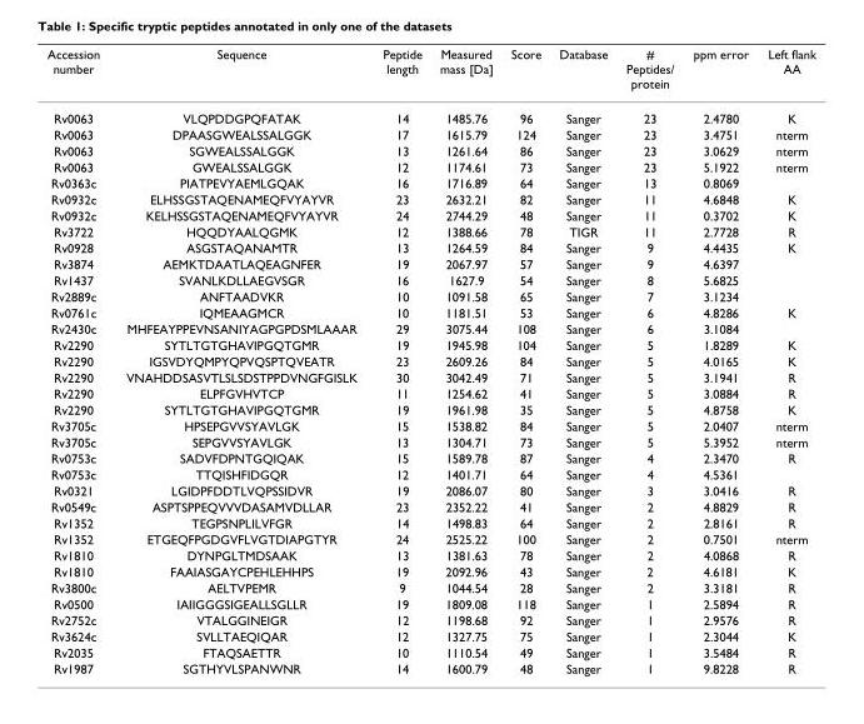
<table><thead><tr><td>Accession number</td><td>Sequence</td><td>Peptide length</td><td>Measured mass [Da]</td><td>Score</td><td>Database</td><td># Peptides/ protein</td><td>ppm error</td><td>Left flank AA</td></tr></thead><tbody><tr><td>Rv0063</td><td>VLQPDDGPQFATAK</td><td>14</td><td>1485.76</td><td>96</td><td>Sanger</td><td>23</td><td>2.4780</td><td>K</td></tr><tr><td>Rv0063</td><td>DPAASGWEALSSALGGK</td><td>17</td><td>1615.79</td><td>124</td><td>Sanger</td><td>23</td><td>3.4751</td><td>nterm</td></tr><tr><td>Rv0063</td><td>SGWEALSSALGGK</td><td>13</td><td>1261.64</td><td>86</td><td>Sanger</td><td>23</td><td>3.0629</td><td>nterm</td></tr><tr><td>Rv0063</td><td>GWEALSSALGGK</td><td>12</td><td>1174.61</td><td>73</td><td>Sanger</td><td>23</td><td>5.1922</td><td>nterm</td></tr><tr><td>Rv0363c</td><td>PIATPEVYAEMLGQAK</td><td>16</td><td>1716.89</td><td>64</td><td>Sanger</td><td>13</td><td>0.8069</td><td></td></tr><tr><td>Rv0932c</td><td>ELHSSGSTAQENAMEQFVYAYVR</td><td>23</td><td>2632.21</td><td>82</td><td>Sanger</td><td>11</td><td>4.6848</td><td>K</td></tr><tr><td>Rv0932c</td><td>KELHSSGSTAQENAMEQFVYAYVR</td><td>24</td><td>2744.29</td><td>48</td><td>Sanger</td><td>11</td><td>0.3702</td><td>K</td></tr><tr><td>Rv3722</td><td>HQQDYAALQGMK</td><td>12</td><td>1388.66</td><td>78</td><td>TIGR</td><td>11</td><td>2.7728</td><td>R</td></tr><tr><td>Rv0928</td><td>ASGSTAQANAMTR</td><td>13</td><td>1264.59</td><td>84</td><td>Sanger</td><td>9</td><td>4.4435</td><td>K</td></tr><tr><td>Rv3874</td><td>AEMKTDAATLAQEAGNFER</td><td>19</td><td>2067.97</td><td>57</td><td>Sanger</td><td>9</td><td>4.6397</td><td></td></tr><tr><td>Rv1437</td><td>SVANLKDLLAEGVSGR</td><td>16</td><td>1627.9</td><td>54</td><td>Sanger</td><td>8</td><td>5.6825</td><td></td></tr><tr><td>Rv2889c</td><td>ANFTAADVKR</td><td>10</td><td>1091.58</td><td>65</td><td>Sanger</td><td>7</td><td>3.1234</td><td></td></tr><tr><td>Rv0761c</td><td>IQMEAAGMCR</td><td>10</td><td>1181.51</td><td>53</td><td>Sanger</td><td>6</td><td>4.8286</td><td>K</td></tr><tr><td>Rv2430c</td><td>MHFEAYPPEVNSANIYAGPGPDSMLAAAR</td><td>29</td><td>3075.44</td><td>108</td><td>Sanger</td><td>6</td><td>3.1084</td><td></td></tr><tr><td>Rv2290</td><td>SYTLTGTGHAVIPGQTGMR</td><td>19</td><td>1945.98</td><td>104</td><td>Sanger</td><td>5</td><td>1.8289</td><td>K</td></tr><tr><td>Rv2290</td><td>IGSVDYQMPYQPVQSPTQVEATR</td><td>23</td><td>2609.26</td><td>84</td><td>Sanger</td><td>5</td><td>4.0165</td><td>K</td></tr><tr><td>Rv2290</td><td>VNAHDDSASVTLSLSDSTPPDVNGFGISLK</td><td>30</td><td>3042.49</td><td>71</td><td>Sanger</td><td>5</td><td>3.1941</td><td>R</td></tr><tr><td>Rv2290</td><td>ELPFGVHVTCP</td><td>11</td><td>1254.62</td><td>41</td><td>Sanger</td><td>5</td><td>3.0884</td><td>R</td></tr><tr><td>Rv2290</td><td>SYTLTGTGHAVIPGQTGMR</td><td>19</td><td>1961.98</td><td>35</td><td>Sanger</td><td>5</td><td>4.8758</td><td>K</td></tr><tr><td>Rv3705c</td><td>HPSEPGVVSYAVLGK</td><td>15</td><td>1538.82</td><td>84</td><td>Sanger</td><td>5</td><td>2.0407</td><td>nterm</td></tr><tr><td>Rv3705c</td><td>SEPGVVSYAVLGK</td><td>13</td><td>1304.71</td><td>73</td><td>Sanger</td><td>5</td><td>5.3952</td><td>nterm</td></tr><tr><td>Rv0753c</td><td>SADVFDPNTGQIQAK</td><td>15</td><td>1589.78</td><td>87</td><td>Sanger</td><td>4</td><td>2.3470</td><td>R</td></tr><tr><td>Rv0753c</td><td>TTQISHFIDGQR</td><td>12</td><td>1401.71</td><td>64</td><td>Sanger</td><td>4</td><td>4.5361</td><td></td></tr><tr><td>Rv0321</td><td>LGIDPFDDTLVQPSSIDVR</td><td>19</td><td>2086.07</td><td>80</td><td>Sanger</td><td>3</td><td>3.0416</td><td>R</td></tr><tr><td>Rv0549c</td><td>ASPTSPPEQVVVDASAMVDLLAR</td><td>23</td><td>2352.22</td><td>41</td><td>Sanger</td><td>2</td><td>4.8829</td><td>R</td></tr><tr><td>Rv1352</td><td>TEGPSNPLILVFGR</td><td>14</td><td>1498.83</td><td>64</td><td>Sanger</td><td>2</td><td>2.8161</td><td>R</td></tr><tr><td>Rv1352</td><td>ETGEQFPGDGVFLVGTDIAPGTYR</td><td>24</td><td>2525.22</td><td>100</td><td>Sanger</td><td>2</td><td>0.7501</td><td>nterm</td></tr><tr><td>Rv1810</td><td>DYNPGLTMDSAAK</td><td>13</td><td>1381.63</td><td>78</td><td>Sanger</td><td>2</td><td>4.0868</td><td>R</td></tr><tr><td>Rv1810</td><td>FAAIASGAYCPEHLEHHPS</td><td>19</td><td>2092.96</td><td>43</td><td>Sanger</td><td>2</td><td>4.6181</td><td>K</td></tr><tr><td>Rv3800c</td><td>AELTVPEMR</td><td>9</td><td>1044.54</td><td>28</td><td>Sanger</td><td>2</td><td>3.3181</td><td>R</td></tr><tr><td>Rv0500</td><td>IAIIGGGSIGEALLSGLLR</td><td>19</td><td>1809.08</td><td>118</td><td>Sanger</td><td>1</td><td>2.5894</td><td>R</td></tr><tr><td>Rv2752c</td><td>VTALGGINEIGR</td><td>12</td><td>1198.68</td><td>92</td><td>Sanger</td><td>1</td><td>2.9576</td><td>R</td></tr><tr><td>Rv3624c</td><td>SVLLTAEQIQAR</td><td>12</td><td>1327.75</td><td>75</td><td>Sanger</td><td>1</td><td>2.3044</td><td>K</td></tr><tr><td>Rv2035</td><td>FTAQSAETTR</td><td>10</td><td>1110.54</td><td>49</td><td>Sanger</td><td>1</td><td>3.5484</td><td>R</td></tr><tr><td>Rv1987</td><td>SGTHYVLSPANWNR</td><td>14</td><td>1600.79</td><td>48</td><td>Sanger</td><td>1</td><td>9.8228</td><td>R</td></tr></tbody></table>